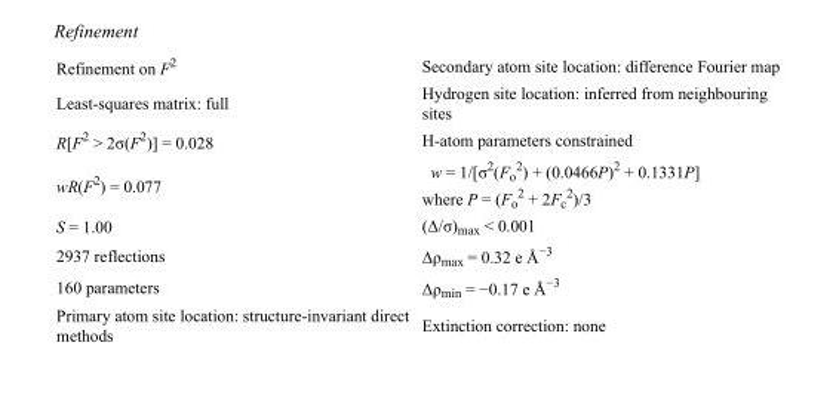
<table><tbody><tr><td>Refinement on F<sup>2</sup></td><td>Secondary atom site location: difference Fourier map</td></tr><tr><td>Least-squares matrix: full</td><td>Hydrogen site location: inferred from neighbouring sites</td></tr><tr><td>R[F<sup>2</sup> &gt; 2σ(F<sup>2</sup>)] = 0.028</td><td>H-atom parameters constrained</td></tr><tr><td>wR(F<sup>2</sup>) = 0.077</td><td>w = 1/[σ<sup>2</sup>(F<sub>o</sub> <sup>2</sup>) + (0.0466P)<sup>2</sup> + 0.1331P] where P = (F<sub>o</sub> <sup>2</sup> + 2F<sub>c</sub> <sup>2</sup>)/3</td></tr><tr><td>S = 1.00</td><td>(Δ/σ)<sub>max</sub> &lt; 0.001</td></tr><tr><td>2937 reflections</td><td>Δρ<sub>max</sub> = 0.32 e Å<sup>−3</sup></td></tr><tr><td>160 parameters</td><td>Δρ<sub>min</sub> = −0.17 e Å<sup>−3</sup></td></tr><tr><td>Primary atom site location: structure-invariant direct methods</td><td>Extinction correction: none</td></tr></tbody></table>